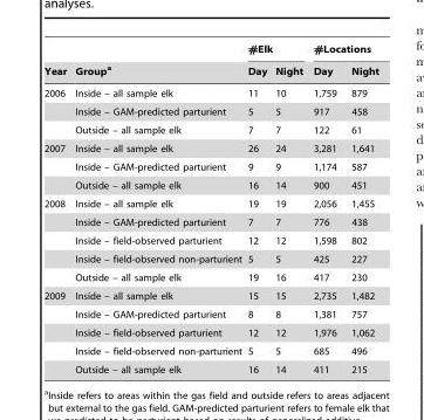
<table><thead><tr><td rowspan="2">Year</td><td rowspan="2">Group<sup>a</sup></td><td colspan="2">#Elk</td><td colspan="2">#Locations</td></tr><tr><td>Day</td><td>Night</td><td>Day</td><td>Night</td></tr></thead><tbody><tr><td rowspan="3">2006</td><td>Inside – all sample elk</td><td>11</td><td>10</td><td>1,759</td><td>879</td></tr><tr><td>Inside – GAM-predicted parturient</td><td>5</td><td>5</td><td>917</td><td>458</td></tr><tr><td>Outside – all sample elk</td><td>7</td><td>7</td><td>122</td><td>61</td></tr><tr><td rowspan="3">2007</td><td>Inside – all sample elk</td><td>26</td><td>24</td><td>3,281</td><td>1,641</td></tr><tr><td>Inside – GAM-predicted parturient</td><td>9</td><td>9</td><td>1,174</td><td>587</td></tr><tr><td>Outside – all sample elk</td><td>16</td><td>14</td><td>900</td><td>451</td></tr><tr><td rowspan="5">2008</td><td>Inside – all sample elk</td><td>19</td><td>19</td><td>2,056</td><td>1,455</td></tr><tr><td>Inside – GAM-predicted parturient</td><td>7</td><td>7</td><td>776</td><td>438</td></tr><tr><td>Inside – field-observed parturient</td><td>12</td><td>12</td><td>1,598</td><td>802</td></tr><tr><td>Inside – field-observed non-parturient</td><td>5</td><td>5</td><td>425</td><td>227</td></tr><tr><td>Outside – all sample elk</td><td>19</td><td>16</td><td>417</td><td>230</td></tr><tr><td rowspan="5">2009</td><td>Inside – all sample elk</td><td>15</td><td>15</td><td>2,735</td><td>1,482</td></tr><tr><td>Inside – GAM-predicted parturient</td><td>8</td><td>8</td><td>1,381</td><td>757</td></tr><tr><td>Inside – field-observed parturient</td><td>12</td><td>12</td><td>1,976</td><td>1,062</td></tr><tr><td>Inside – field-observed non-parturient</td><td>5</td><td>5</td><td>685</td><td>496</td></tr><tr><td>Outside – all sample elk</td><td>16</td><td>14</td><td>411</td><td>215</td></tr></tbody></table>